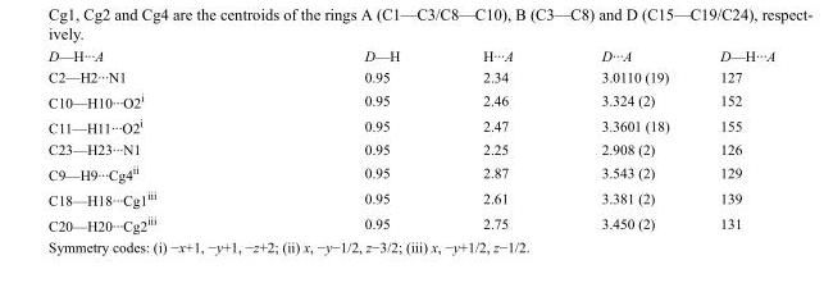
<table><tbody><tr><td>D—H···A</td><td>D—H</td><td>H···A</td><td>D···A</td><td>D—H···A</td></tr><tr><td>C2—H2···N1</td><td>0.95</td><td>2.34</td><td>3.0110 (19)</td><td>127</td></tr><tr><td>C10—H10···O2<sup>i</sup></td><td>0.95</td><td>2.46</td><td>3.324 (2)</td><td>152</td></tr><tr><td>C11—H11···O2<sup>i</sup></td><td>0.95</td><td>2.47</td><td>3.3601 (18)</td><td>155</td></tr><tr><td>C23—H23···N1</td><td>0.95</td><td>2.25</td><td>2.908 (2)</td><td>126</td></tr><tr><td>C9—H9···Cg4<sup>ii</sup></td><td>0.95</td><td>2.87</td><td>3.543 (2)</td><td>129</td></tr><tr><td>C18—H18···Cg1<sup>iii</sup></td><td>0.95</td><td>2.61</td><td>3.381 (2)</td><td>139</td></tr><tr><td>C20—H20···Cg2<sup>iii</sup></td><td>0.95</td><td>2.75</td><td>3.450 (2)</td><td>131</td></tr></tbody></table>